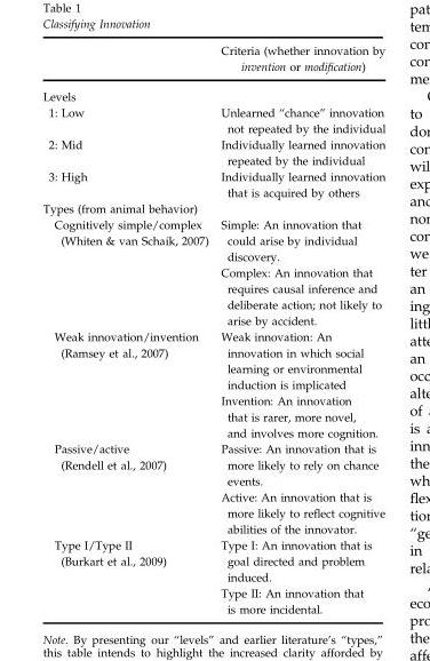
<table><thead><tr><td></td><td>Criteria (whether innovation by invention or modification)</td></tr></thead><tbody><tr><td colspan="2">Levels</td></tr><tr><td>1: Low</td><td>Unlearned “chance” innovation not repeated by the individual</td></tr><tr><td>2: Mid</td><td>Individually learned innovation repeated by the individual</td></tr><tr><td>3: High</td><td>Individually learned innovation that is acquired by others</td></tr><tr><td colspan="2">Types (from animal behavior)</td></tr><tr><td>Cognitively simple/complex (Whiten &amp; van Schaik, 2007)</td><td>Simple: An innovation that could arise by individual discovery. Complex: An innovation that requires causal inference and deliberate action; not likely to arise by accident.</td></tr><tr><td>Weak innovation/invention (Ramsey et al., 2007)</td><td>Weak innovation: An innovation in which social learning or environmental induction is implicated Invention: An innovation that is rarer, more novel, and involves more cognition.</td></tr><tr><td>Passive/active (Rendell et al., 2007)</td><td>Passive: An innovation that is more likely to rely on chance events. Active: An innovation that is more likely to reflect cognitive abilities of the innovator.</td></tr><tr><td>Type I/Type II (Burkart et al., 2009)</td><td>Type I: An innovation that is goal directed and problem induced. Type II: An innovation that is more incidental.</td></tr></tbody></table>